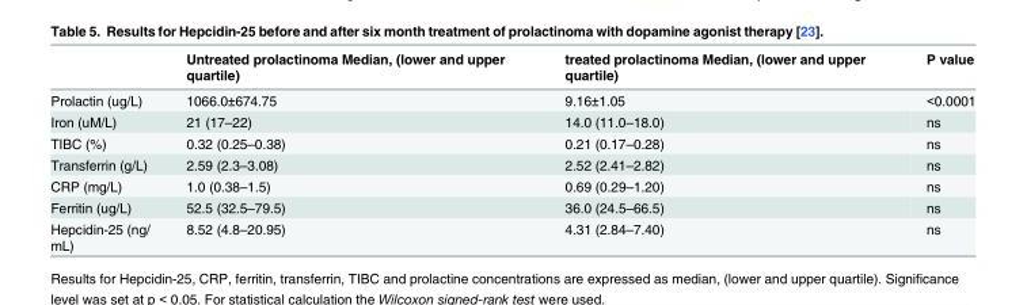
<table><thead><tr><td></td><td>Untreated prolactinoma Median, (lower and upper quartile)</td><td>treated prolactinoma Median, (lower and upper quartile)</td><td>P value</td></tr></thead><tbody><tr><td>Prolactin (ug/L)</td><td>1066.0±674.75</td><td>9.16±1.05</td><td>&lt;0.0001</td></tr><tr><td>Iron (uM/L)</td><td>21 (17–22)</td><td>14.0 (11.0–18.0)</td><td>ns</td></tr><tr><td>TIBC (%)</td><td>0.32 (0.25–0.38)</td><td>0.21 (0.17–0.28)</td><td>ns</td></tr><tr><td>Transferrin (g/L)</td><td>2.59 (2.3–3.08)</td><td>2.52 (2.41–2.82)</td><td>ns</td></tr><tr><td>CRP (mg/L)</td><td>1.0 (0.38–1.5)</td><td>0.69 (0.29–1.20)</td><td>ns</td></tr><tr><td>Ferritin (ug/L)</td><td>52.5 (32.5–79.5)</td><td>36.0 (24.5–66.5)</td><td>ns</td></tr><tr><td>Hepcidin-25 (ng/ mL)</td><td>8.52 (4.8–20.95)</td><td>4.31 (2.84–7.40)</td><td>ns</td></tr></tbody></table>